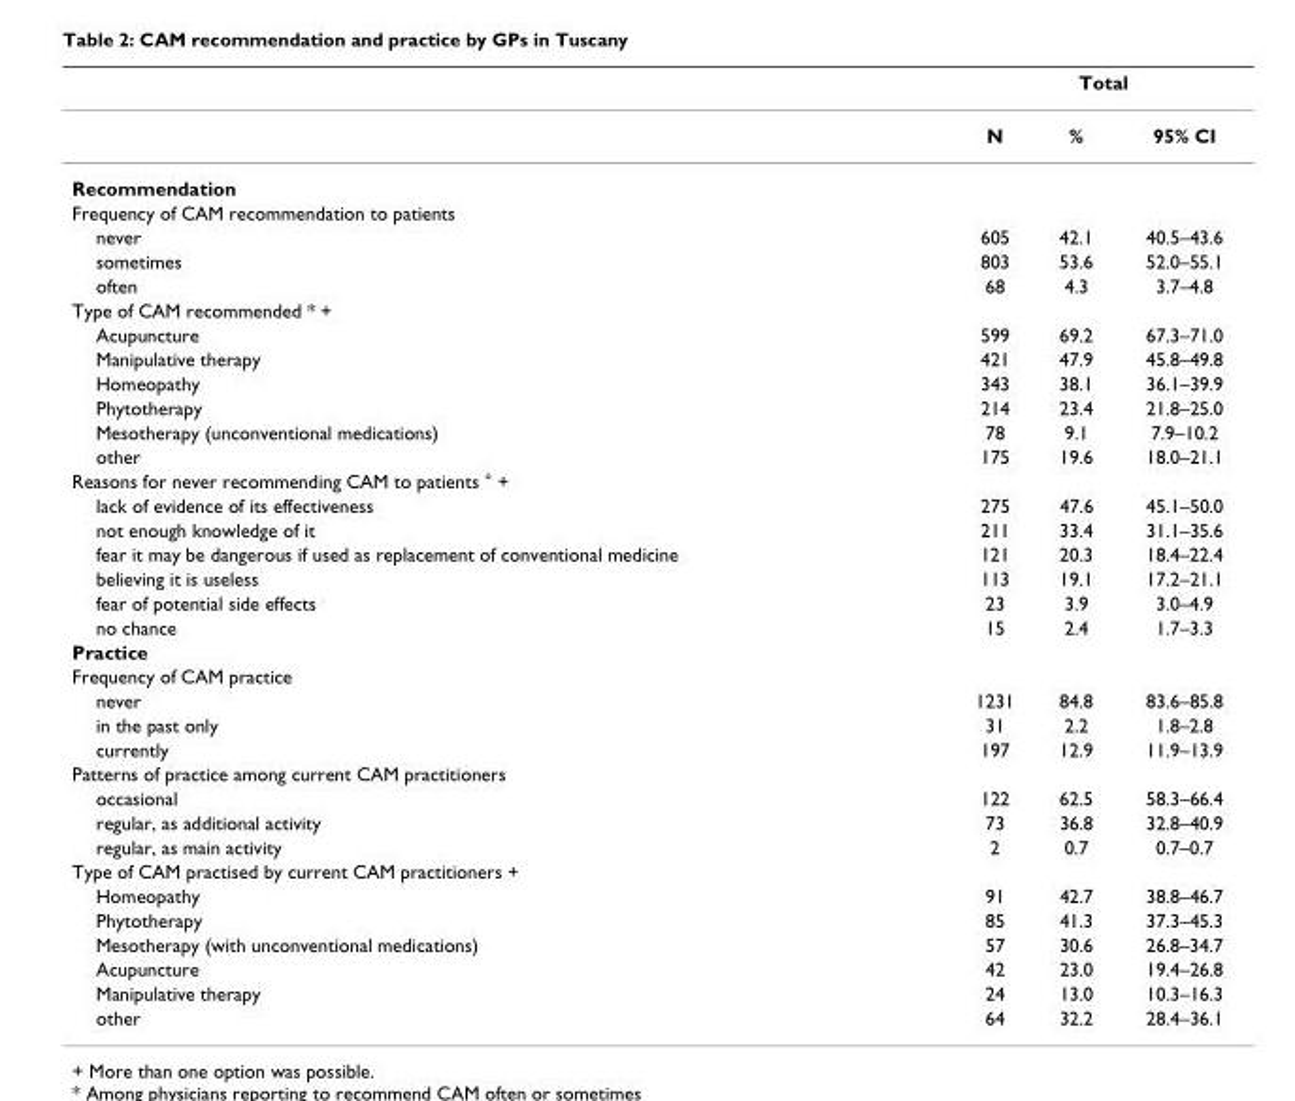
<table><thead><tr><td rowspan="2"></td><td colspan="3">Total</td></tr><tr><td>N</td><td>%</td><td>95% CI</td></tr></thead><tbody><tr><td colspan="4">Recommendation</td></tr><tr><td colspan="4">Frequency of CAM recommendation to patients</td></tr><tr><td>never</td><td>605</td><td>42.1</td><td>40.5–43.6</td></tr><tr><td>sometimes</td><td>803</td><td>53.6</td><td>52.0–55.1</td></tr><tr><td>often</td><td>68</td><td>4.3</td><td>3.7–4.8</td></tr><tr><td colspan="4">Type of CAM recommended * +</td></tr><tr><td>Acupuncture</td><td>599</td><td>69.2</td><td>67.3–71.0</td></tr><tr><td>Manipulative therapy</td><td>421</td><td>47.9</td><td>45.8–49.8</td></tr><tr><td>Homeopathy</td><td>343</td><td>38.1</td><td>36.1–39.9</td></tr><tr><td>Phytotherapy</td><td>214</td><td>23.4</td><td>21.8–25.0</td></tr><tr><td>Mesotherapy (unconventional medications)</td><td>78</td><td>9.1</td><td>7.9–10.2</td></tr><tr><td>other</td><td>175</td><td>19.6</td><td>18.0–21.1</td></tr><tr><td colspan="4">Reasons for never recommending CAM to patients ° +</td></tr><tr><td>lack of evidence of its effectiveness</td><td>275</td><td>47.6</td><td>45.1–50.0</td></tr><tr><td>not enough knowledge of it</td><td>211</td><td>33.4</td><td>31.1–35.6</td></tr><tr><td>fear it may be dangerous if used as replacement of conventional medicine</td><td>121</td><td>20.3</td><td>18.4–22.4</td></tr><tr><td>believing it is useless</td><td>113</td><td>19.1</td><td>17.2–21.1</td></tr><tr><td>fear of potential side effects</td><td>23</td><td>3.9</td><td>3.0–4.9</td></tr><tr><td>no chance</td><td>15</td><td>2.4</td><td>1.7–3.3</td></tr><tr><td colspan="4">Practice</td></tr><tr><td colspan="4">Frequency of CAM practice</td></tr><tr><td>never</td><td>1231</td><td>84.8</td><td>83.6–85.8</td></tr><tr><td>in the past only</td><td>31</td><td>2.2</td><td>1.8–2.8</td></tr><tr><td>currently</td><td>197</td><td>12.9</td><td>11.9–13.9</td></tr><tr><td colspan="4">Patterns of practice among current CAM practitioners</td></tr><tr><td>occasional</td><td>122</td><td>62.5</td><td>58.3–66.4</td></tr><tr><td>regular, as additional activity</td><td>73</td><td>36.8</td><td>32.8–40.9</td></tr><tr><td>regular, as main activity</td><td>2</td><td>0.7</td><td>0.7–0.7</td></tr><tr><td colspan="4">Type of CAM practised by current CAM practitioners +</td></tr><tr><td>Homeopathy</td><td>91</td><td>42.7</td><td>38.8–46.7</td></tr><tr><td>Phytotherapy</td><td>85</td><td>41.3</td><td>37.3–45.3</td></tr><tr><td>Mesotherapy (with unconventional medications)</td><td>57</td><td>30.6</td><td>26.8–34.7</td></tr><tr><td>Acupuncture</td><td>42</td><td>23.0</td><td>19.4–26.8</td></tr><tr><td>Manipulative therapy</td><td>24</td><td>13.0</td><td>10.3–16.3</td></tr><tr><td>other</td><td>64</td><td>32.2</td><td>28.4–36.1</td></tr></tbody></table>